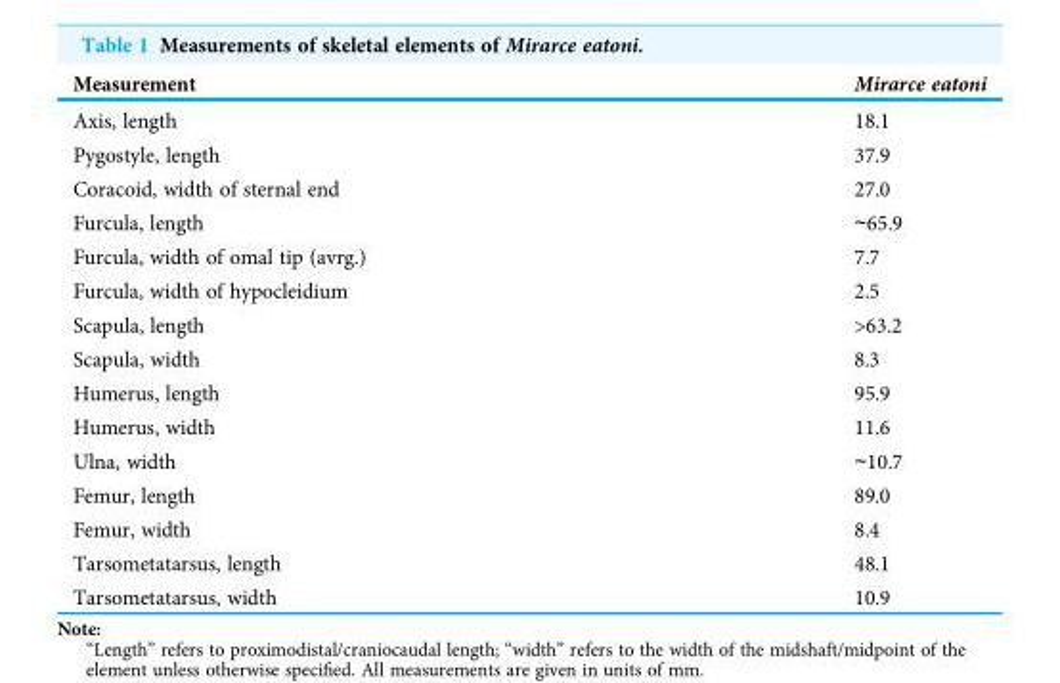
<table><thead><tr><td>Measurement</td><td>Mirarce eatoni</td></tr></thead><tbody><tr><td>Axis, length</td><td>18.1</td></tr><tr><td>Pygostyle, length</td><td>37.9</td></tr><tr><td>Coracoid, width of sternal end</td><td>27.0</td></tr><tr><td>Furcula, length</td><td>∼65.9</td></tr><tr><td>Furcula, width of omal tip (avrg.)</td><td>7.7</td></tr><tr><td>Furcula, width of hypocleidium</td><td>2.5</td></tr><tr><td>Scapula, length</td><td>&gt;63.2</td></tr><tr><td>Scapula, width</td><td>8.3</td></tr><tr><td>Humerus, length</td><td>95.9</td></tr><tr><td>Humerus, width</td><td>11.6</td></tr><tr><td>Ulna, width</td><td>∼10.7</td></tr><tr><td>Femur, length</td><td>89.0</td></tr><tr><td>Femur, width</td><td>8.4</td></tr><tr><td>Tarsometatarsus, length</td><td>48.1</td></tr><tr><td>Tarsometatarsus, width</td><td>10.9</td></tr></tbody></table>